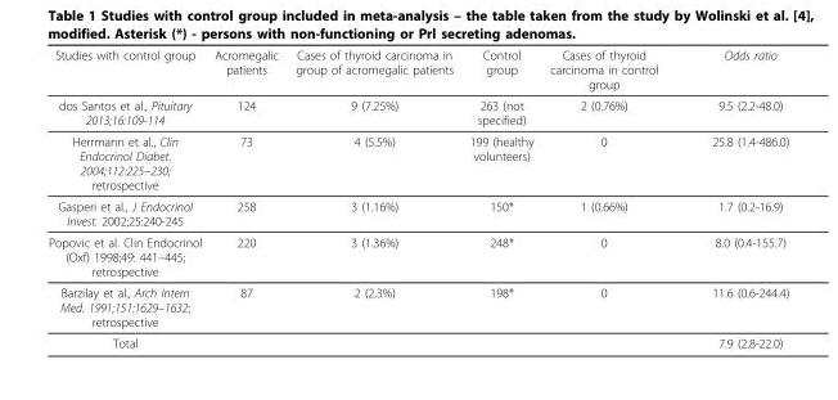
<table><thead><tr><td>Studies with control group</td><td>Acromegalic patients</td><td>Cases of thyroid carcinoma in group of acromegalic patients</td><td>Control group</td><td>Cases of thyroid carcinoma in control group</td><td>Odds ratio</td></tr></thead><tbody><tr><td>dos Santos et al., Pituitary 2013;16:109-114</td><td>124</td><td>9 (7.25%)</td><td>263 (not specified)</td><td>2 (0.76%)</td><td>9.5 (2.2-48.0)</td></tr><tr><td>Herrmann et al., Clin Endocrinol Diabet. 2004;112:225–230; retrospective</td><td>73</td><td>4 (5.5%)</td><td>199 (healthy volunteers)</td><td>0</td><td>25.8 (1.4-486.0)</td></tr><tr><td>Gasperi et al., J Endocrinol Invest. 2002;25:240-245</td><td>258</td><td>3 (1.16%)</td><td>150*</td><td>1 (0.66%)</td><td>1.7 (0.2-16.9)</td></tr><tr><td>Popovic et al. Clin Endocrinol (Oxf) 1998;49: 441–445; retrospective</td><td>220</td><td>3 (1.36%)</td><td>248*</td><td>0</td><td>8.0 (0.4-155.7)</td></tr><tr><td>Barzilay et al., Arch Intern Med. 1991;151:1629–1632; retrospective</td><td>87</td><td>2 (2.3%)</td><td>198*</td><td>0</td><td>11.6 (0.6-244.4)</td></tr><tr><td>Total</td><td></td><td></td><td></td><td></td><td>7.9 (2.8-22.0)</td></tr></tbody></table>